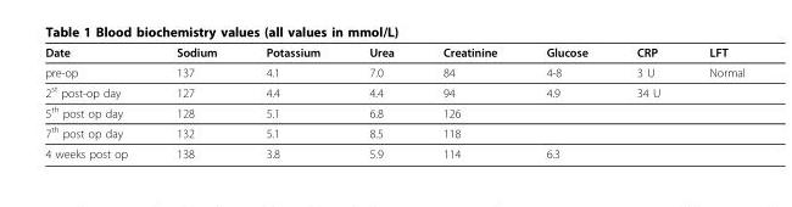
<table><thead><tr><td>Date</td><td>Sodium</td><td>Potassium</td><td>Urea</td><td>Creatinine</td><td>Glucose</td><td>CRP</td><td>LFT</td></tr></thead><tbody><tr><td>pre-op</td><td>137</td><td>4.1</td><td>7.0</td><td>84</td><td>4-8</td><td>3 U</td><td>Normal</td></tr><tr><td>2<sup>st</sup> post-op day</td><td>127</td><td>4.4</td><td>4.4</td><td>94</td><td>4.9</td><td>34 U</td><td></td></tr><tr><td>5<sup>th</sup> post op day</td><td>128</td><td>5.1</td><td>6.8</td><td>126</td><td></td><td></td><td></td></tr><tr><td>7<sup>th</sup> post op day</td><td>132</td><td>5.1</td><td>8.5</td><td>118</td><td></td><td></td><td></td></tr><tr><td>4 weeks post op</td><td>138</td><td>3.8</td><td>5.9</td><td>114</td><td>6.3</td><td></td><td></td></tr></tbody></table>